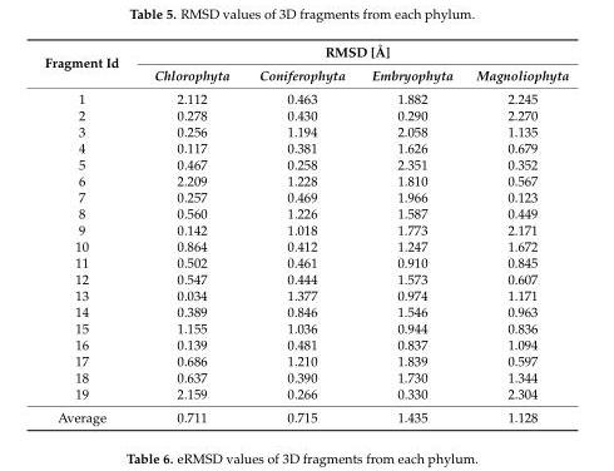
<table><thead><tr><td rowspan="2">Fragment Id</td><td colspan="4">RMSD [Å]</td></tr><tr><td>Chlorophyta</td><td>Coniferophyta</td><td>Embryophyta</td><td>Magnoliophyta</td></tr></thead><tbody><tr><td>1</td><td>2.112</td><td>0.463</td><td>1.882</td><td>2.245</td></tr><tr><td>2</td><td>0.278</td><td>0.430</td><td>0.290</td><td>2.270</td></tr><tr><td>3</td><td>0.256</td><td>1.194</td><td>2.058</td><td>1.135</td></tr><tr><td>4</td><td>0.117</td><td>0.381</td><td>1.626</td><td>0.679</td></tr><tr><td>5</td><td>0.467</td><td>0.258</td><td>2.351</td><td>0.352</td></tr><tr><td>6</td><td>2.209</td><td>1.228</td><td>1.810</td><td>0.567</td></tr><tr><td>7</td><td>0.257</td><td>0.469</td><td>1.966</td><td>0.123</td></tr><tr><td>8</td><td>0.560</td><td>1.226</td><td>1.587</td><td>0.449</td></tr><tr><td>9</td><td>0.142</td><td>1.018</td><td>1.773</td><td>2.171</td></tr><tr><td>10</td><td>0.864</td><td>0.412</td><td>1.247</td><td>1.672</td></tr><tr><td>11</td><td>0.502</td><td>0.461</td><td>0.910</td><td>0.845</td></tr><tr><td>12</td><td>0.547</td><td>0.444</td><td>1.573</td><td>0.607</td></tr><tr><td>13</td><td>0.034</td><td>1.377</td><td>0.974</td><td>1.171</td></tr><tr><td>14</td><td>0.389</td><td>0.846</td><td>1.546</td><td>0.963</td></tr><tr><td>15</td><td>1.155</td><td>1.036</td><td>0.944</td><td>0.836</td></tr><tr><td>16</td><td>0.139</td><td>0.481</td><td>0.837</td><td>1.094</td></tr><tr><td>17</td><td>0.686</td><td>1.210</td><td>1.839</td><td>0.597</td></tr><tr><td>18</td><td>0.637</td><td>0.390</td><td>1.730</td><td>1.344</td></tr><tr><td>19</td><td>2.159</td><td>0.266</td><td>0.330</td><td>2.304</td></tr><tr><td>Average</td><td>0.711</td><td>0.715</td><td>1.435</td><td>1.128</td></tr></tbody></table>